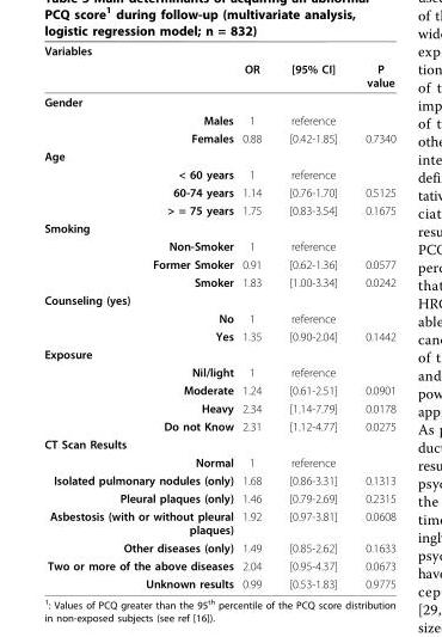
<table><thead><tr><td rowspan="2">Variables</td><td rowspan="2">OR</td><td rowspan="2">[95% CI]</td><td rowspan="2">P value</td></tr><tr></tr></thead><tbody><tr><td colspan="4">Gender</td></tr><tr><td>Males</td><td>1</td><td>reference</td><td></td></tr><tr><td>Females</td><td>0.88</td><td>[0.42-1.85]</td><td>0.7340</td></tr><tr><td colspan="4">Age</td></tr><tr><td>&lt; 60 years</td><td>1</td><td>reference</td><td></td></tr><tr><td>60-74 years</td><td>1.14</td><td>[0.76-1.70]</td><td>0.5125</td></tr><tr><td>&gt; = 75 years</td><td>1.75</td><td>[0.83-3.54]</td><td>0.1675</td></tr><tr><td colspan="4">Smoking</td></tr><tr><td>Non-Smoker</td><td>1</td><td>reference</td><td></td></tr><tr><td>Former Smoker</td><td>0.91</td><td>[0.62-1.36]</td><td>0.0577</td></tr><tr><td>Smoker</td><td>1.83</td><td>[1.00-3.34]</td><td>0.0242</td></tr><tr><td colspan="4">Counseling (yes)</td></tr><tr><td>No</td><td>1</td><td>reference</td><td></td></tr><tr><td>Yes</td><td>1.35</td><td>[0.90-2.04]</td><td>0.1442</td></tr><tr><td colspan="4">Exposure</td></tr><tr><td>Nil/light</td><td>1</td><td>reference</td><td></td></tr><tr><td>Moderate</td><td>1.24</td><td>[0.61-2.51]</td><td>0.0901</td></tr><tr><td>Heavy</td><td>2.34</td><td>[1.14-7.79]</td><td>0.0178</td></tr><tr><td>Do not Know</td><td>2.31</td><td>[1.12-4.77]</td><td>0.0275</td></tr><tr><td colspan="4">CT Scan Results</td></tr><tr><td>Normal</td><td>1</td><td>reference</td><td></td></tr><tr><td>Isolated pulmonary nodules (only)</td><td>1.68</td><td>[0.86-3.31]</td><td>0.1313</td></tr><tr><td>Pleural plaques (only)</td><td>1.46</td><td>[0.79-2.69]</td><td>0.2315</td></tr><tr><td>Asbestosis (with or without pleural plaques)</td><td>1.92</td><td>[0.97-3.81]</td><td>0.0608</td></tr><tr><td>Other diseases (only)</td><td>1.49</td><td>[0.85-2.62]</td><td>0.1633</td></tr><tr><td>Two or more of the above diseases</td><td>2.04</td><td>[0.95-4.37]</td><td>0.0673</td></tr><tr><td>Unknown results</td><td>0.99</td><td>[0.53-1.83]</td><td>0.9775</td></tr></tbody></table>